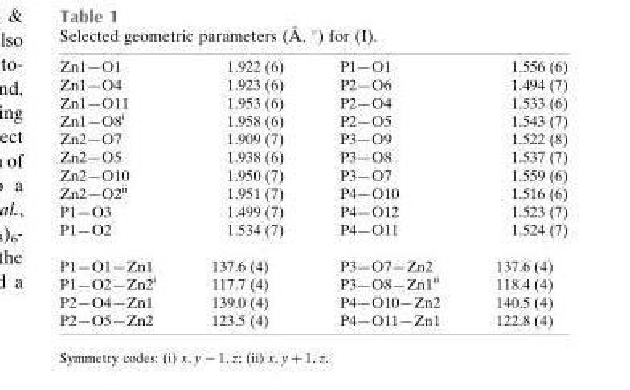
<table><tbody><tr><td>Zn1—O1</td><td>1.922 (6)</td><td>P1—O1</td><td>1.556 (6)</td></tr><tr><td>Zn1—O4</td><td>1.923 (6)</td><td>P2—O6</td><td>1.494 (7)</td></tr><tr><td>Zn1—O11</td><td>1.953 (6)</td><td>P2—O4</td><td>1.533 (6)</td></tr><tr><td>Zn1—O8<sup>i</sup></td><td>1.958 (6)</td><td>P2—O5</td><td>1.543 (7)</td></tr><tr><td>Zn2—O7</td><td>1.909 (7)</td><td>P3—O9</td><td>1.522 (8)</td></tr><tr><td>Zn2—O5</td><td>1.938 (6)</td><td>P3—O8</td><td>1.537 (7)</td></tr><tr><td>Zn2—O10</td><td>1.950 (7)</td><td>P3—O7</td><td>1.559 (6)</td></tr><tr><td>Zn2—O2<sup>ii</sup></td><td>1.951 (7)</td><td>P4—O10</td><td>1.516 (6)</td></tr><tr><td>P1—O3</td><td>1.499 (7)</td><td>P4—O12</td><td>1.523 (7)</td></tr><tr><td>P1—O2</td><td>1.534 (7)</td><td>P4—O11</td><td>1.524 (7)</td></tr><tr><td>P1—O1—Zn1</td><td>137.6 (4)</td><td>P3—O7—Zn2</td><td>137.6 (4)</td></tr><tr><td>P1—O2—Zn2<sup>i</sup></td><td>117.7 (4)</td><td>P3—O8—Zn1<sup>ii</sup></td><td>118.4 (4)</td></tr><tr><td>P2—O4—Zn1</td><td>139.0 (4)</td><td>P4—O10—Zn2</td><td>140.5 (4)</td></tr><tr><td>P2—O5—Zn2</td><td>123.5 (4)</td><td>P4—O11—Zn1</td><td>122.8 (4)</td></tr></tbody></table>